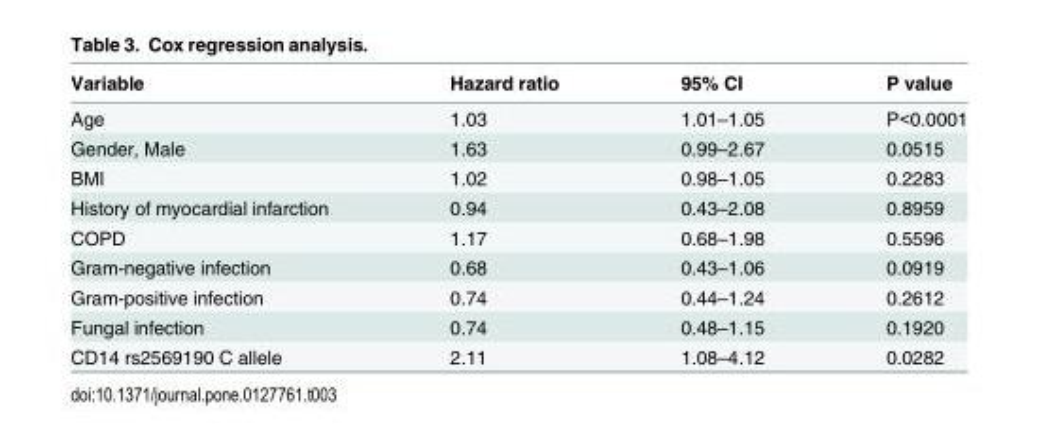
<table><thead><tr><td>Variable</td><td>Hazard ratio</td><td>95% CI</td><td>P value</td></tr></thead><tbody><tr><td>Age</td><td>1.03</td><td>1.01–1.05</td><td>P&lt;0.0001</td></tr><tr><td>Gender, Male</td><td>1.63</td><td>0.99–2.67</td><td>0.0515</td></tr><tr><td>BMI</td><td>1.02</td><td>0.98–1.05</td><td>0.2283</td></tr><tr><td>History of myocardial infarction</td><td>0.94</td><td>0.43–2.08</td><td>0.8959</td></tr><tr><td>COPD</td><td>1.17</td><td>0.68–1.98</td><td>0.5596</td></tr><tr><td>Gram-negative infection</td><td>0.68</td><td>0.43–1.06</td><td>0.0919</td></tr><tr><td>Gram-positive infection</td><td>0.74</td><td>0.44–1.24</td><td>0.2612</td></tr><tr><td>Fungal infection</td><td>0.74</td><td>0.48–1.15</td><td>0.1920</td></tr><tr><td>CD14 rs2569190 C allele</td><td>2.11</td><td>1.08–4.12</td><td>0.0282</td></tr></tbody></table>